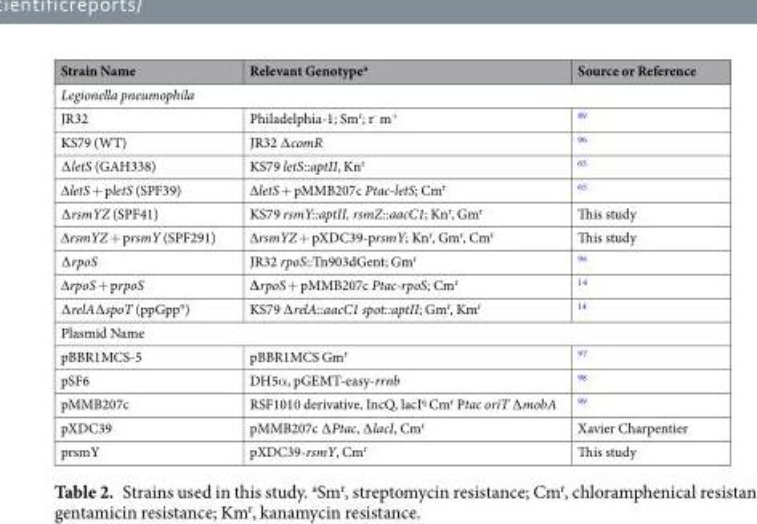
<table><thead><tr><td>Strain Name</td><td>Relevant Genotype<sup>a</sup></td><td>Source or Reference</td></tr></thead><tbody><tr><td colspan="3">Legionella pneumophila</td></tr><tr><td>JR32</td><td>Philadelphia-1; Sm<sup>r</sup>; r<sup>-</sup> m<sup>+</sup></td><td><sup>89</sup></td></tr><tr><td>KS79 (WT)</td><td>JR32 ∆comR</td><td><sup>96</sup></td></tr><tr><td>∆letS (GAH338)</td><td>KS79 letS::aptII, Kn<sup>r</sup></td><td><sup>65</sup></td></tr><tr><td>∆letS + pletS (SPF39)</td><td>∆letS + pMMB207c Ptac-letS; Cm<sup>r</sup></td><td><sup>65</sup></td></tr><tr><td>∆rsmYZ (SPF41)</td><td>KS79 rsmY::aptII, rsmZ::aacC1; Kn<sup>r</sup>, Gm<sup>r</sup></td><td>This study</td></tr><tr><td>∆rsmYZ + prsmY (SPF291)</td><td>∆rsmYZ + pXDC39-prsmY; Kn<sup>r</sup>, Gm<sup>r</sup>, Cm<sup>r</sup></td><td>This study</td></tr><tr><td>∆rpoS</td><td>JR32 rpoS::Tn903dGent; Gm<sup>r</sup></td><td><sup>96</sup></td></tr><tr><td>∆rpoS + prpoS</td><td>∆rpoS + pMMB207c Ptac-rpoS; Cm<sup>r</sup></td><td><sup>14</sup></td></tr><tr><td>∆relA∆spoT (ppGpp°)</td><td>KS79 ∆relA::aacC1 spot::aptII; Gm<sup>r</sup>, Km<sup>r</sup></td><td><sup>14</sup></td></tr><tr><td colspan="3">Plasmid Name</td></tr><tr><td>pBBR1MCS-5</td><td>pBBR1MCS Gm<sup>r</sup></td><td><sup>97</sup></td></tr><tr><td>pSF6</td><td>DH5α, pGEMT-easy-rrnb</td><td><sup>98</sup></td></tr><tr><td>pMMB207c</td><td>RSF1010 derivative, IncQ, lacI<sup>q</sup> Cm<sup>r</sup> Ptac oriT ∆mobA</td><td><sup>99</sup></td></tr><tr><td>pXDC39</td><td>pMMB207c ∆Ptac, ∆lacI, Cm<sup>r</sup></td><td>Xavier Charpentier</td></tr><tr><td>prsmY</td><td>pXDC39-rsmY, Cm<sup>r</sup></td><td>This study</td></tr></tbody></table>